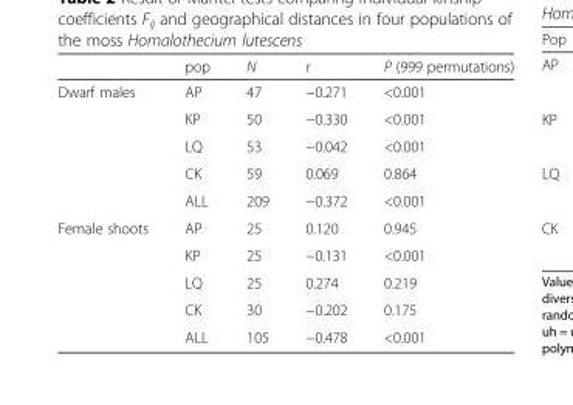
<table><thead><tr><td></td><td>pop</td><td>N</td><td>r</td><td>P (999 permutations)</td></tr></thead><tbody><tr><td rowspan="5">Dwarf males</td><td>AP</td><td>47</td><td>−0.271</td><td>&lt;0.001</td></tr><tr><td>KP</td><td>50</td><td>−0.330</td><td>&lt;0.001</td></tr><tr><td>LQ</td><td>53</td><td>−0.042</td><td>&lt;0.001</td></tr><tr><td>CK</td><td>59</td><td>0.069</td><td>0.864</td></tr><tr><td>ALL</td><td>209</td><td>−0.372</td><td>&lt;0.001</td></tr><tr><td rowspan="5">Female shoots</td><td>AP</td><td>25</td><td>0.120</td><td>0.945</td></tr><tr><td>KP</td><td>25</td><td>−0.131</td><td>&lt;0.001</td></tr><tr><td>LQ</td><td>25</td><td>0.274</td><td>0.219</td></tr><tr><td>CK</td><td>30</td><td>−0.202</td><td>0.175</td></tr><tr><td>ALL</td><td>105</td><td>−0.478</td><td>&lt;0.001</td></tr></tbody></table>